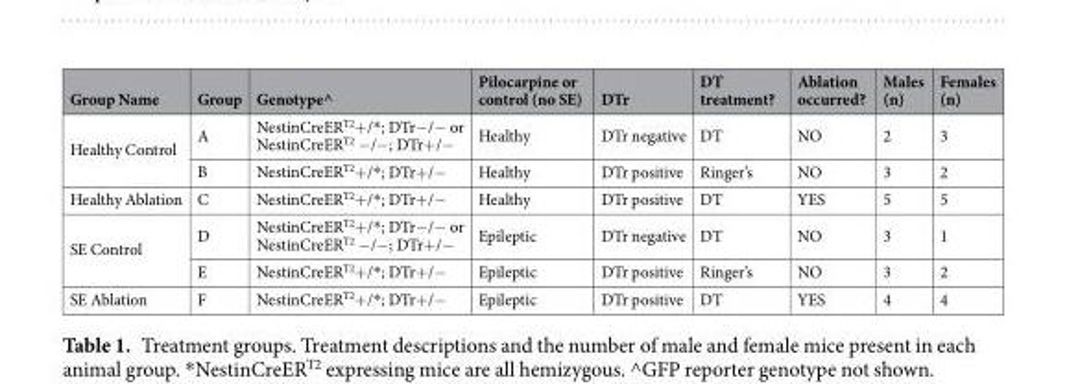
<table><thead><tr><td>Group Name</td><td>Group</td><td>Genotype^</td><td>Pilocarpine or control (no SE)</td><td>DTr</td><td>DT treatment?</td><td>Ablation occurred?</td><td>Males (n)</td><td>Females (n)</td></tr></thead><tbody><tr><td rowspan="2">Healthy Control</td><td>A</td><td>NestinCreER<sup>T2</sup>+/*; DTr−/− or NestinCreER<sup>T2</sup> −/−; DTr+/−</td><td>Healthy</td><td>DTr negative</td><td>DT</td><td>NO</td><td>2</td><td>3</td></tr><tr><td>B</td><td>NestinCreER<sup>T2</sup>+/*; DTr+/−</td><td>Healthy</td><td>DTr positive</td><td>Ringer’s</td><td>NO</td><td>3</td><td>2</td></tr><tr><td>Healthy Ablation</td><td>C</td><td>NestinCreER<sup>T2</sup>+/*; DTr+/−</td><td>Healthy</td><td>DTr positive</td><td>DT</td><td>YES</td><td>5</td><td>5</td></tr><tr><td rowspan="2">SE Control</td><td>D</td><td>NestinCreER<sup>T2</sup>+/*; DTr−/− or NestinCreER<sup>T2</sup> −/−; DTr+/−</td><td>Epileptic</td><td>DTr negative</td><td>DT</td><td>NO</td><td>3</td><td>1</td></tr><tr><td>E</td><td>NestinCreER<sup>T2</sup>+/*; DTr+/−</td><td>Epileptic</td><td>DTr positive</td><td>Ringer’s</td><td>NO</td><td>3</td><td>2</td></tr><tr><td>SE Ablation</td><td>F</td><td>NestinCreER<sup>T2</sup>+/*; DTr+/−</td><td>Epileptic</td><td>DTr positive</td><td>DT</td><td>YES</td><td>4</td><td>4</td></tr></tbody></table>